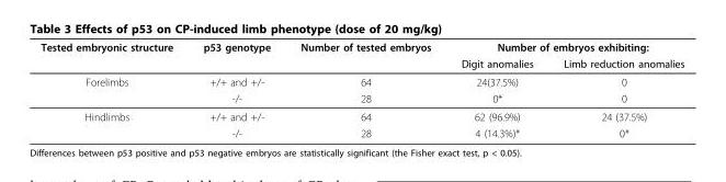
<table><thead><tr><td rowspan="2">Tested embryonic structure</td><td rowspan="2">p53 genotype</td><td rowspan="2">Number of tested embryos</td><td colspan="2">Number of embryos exhibiting:</td></tr><tr><td>Digit anomalies</td><td>Limb reduction anomalies</td></tr></thead><tbody><tr><td rowspan="2">Forelimbs</td><td>+/+ and +/-</td><td>64</td><td>24(37.5%)</td><td>0</td></tr><tr><td>-/-</td><td>28</td><td>0*</td><td>0</td></tr><tr><td rowspan="2">Hindlimbs</td><td>+/+ and +/-</td><td>64</td><td>62 (96.9%)</td><td>24 (37.5%)</td></tr><tr><td>-/-</td><td>28</td><td>4 (14.3%)*</td><td>0*</td></tr></tbody></table>